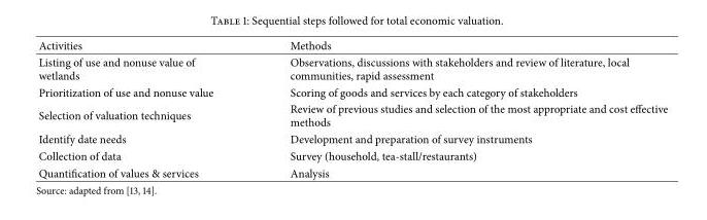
<table><thead><tr><td>Activities</td><td>Methods</td></tr></thead><tbody><tr><td>Listing of use and nonuse value of wetlands</td><td>Observations, discussions with stakeholders and review of literature, local communities, rapid assessment</td></tr><tr><td>Prioritization of use and nonuse value</td><td>Scoring of goods and services by each category of stakeholders</td></tr><tr><td>Selection of valuation techniques</td><td>Review of previous studies and selection of the most appropriate and cost effective methods</td></tr><tr><td>Identify date needs</td><td>Development and preparation of survey instruments</td></tr><tr><td>Collection of data</td><td>Survey (household, tea-stall/restaurants)</td></tr><tr><td>Quantification of values &amp; services</td><td>Analysis</td></tr></tbody></table>